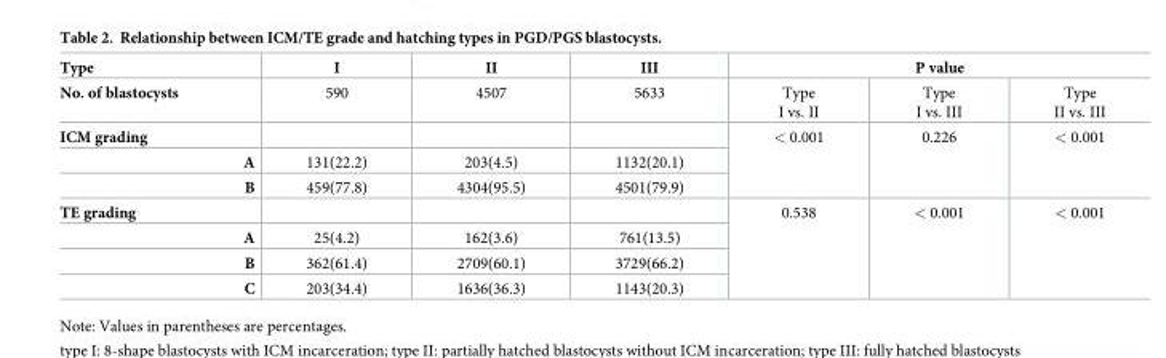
<table><thead><tr><td rowspan="2">Type No. of blastocysts</td><td rowspan="2">I 590</td><td rowspan="2">II 4507</td><td rowspan="2">III 5633</td><td colspan="3">P value</td></tr><tr><td>Type I vs. II</td><td>Type I vs. III</td><td>Type II vs. III</td></tr></thead><tbody><tr><td colspan="4">ICM grading</td><td rowspan="3">&lt; 0.001</td><td rowspan="3">0.226</td><td rowspan="3">&lt; 0.001</td></tr><tr><td>A</td><td>131(22.2)</td><td>203(4.5)</td><td>1132(20.1)</td></tr><tr><td>B</td><td>459(77.8)</td><td>4304(95.5)</td><td>4501(79.9)</td></tr><tr><td colspan="4">TE grading</td><td rowspan="4">0.538</td><td rowspan="4">&lt; 0.001</td><td rowspan="4">&lt; 0.001</td></tr><tr><td>A</td><td>25(4.2)</td><td>162(3.6)</td><td>761(13.5)</td></tr><tr><td>B</td><td>362(61.4)</td><td>2709(60.1)</td><td>3729(66.2)</td></tr><tr><td>C</td><td>203(34.4)</td><td>1636(36.3)</td><td>1143(20.3)</td></tr></tbody></table>